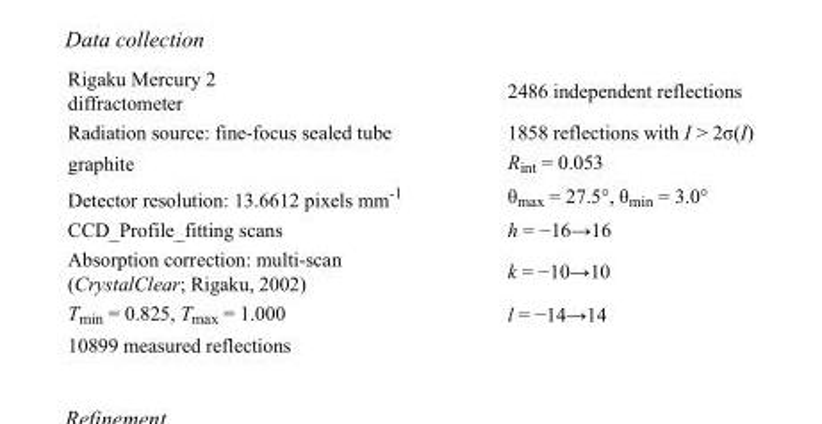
<table><tbody><tr><td>Rigaku Mercury 2 diffractometer</td><td>2486 independent reflections</td></tr><tr><td>Radiation source: fine-focus sealed tube</td><td>1858 reflections with I &gt; 2σ(I)</td></tr><tr><td>graphite</td><td>R<sub>int</sub> = 0.053</td></tr><tr><td>Detector resolution: 13.6612 pixels mm<sup>-1</sup></td><td>θ<sub>max</sub> = 27.5°, θ<sub>min</sub> = 3.0°</td></tr><tr><td>CCD_Profile_fitting scans</td><td>h = −16→16</td></tr><tr><td>Absorption correction: multi-scan (CrystalClear; Rigaku, 2002)</td><td>k = −10→10</td></tr><tr><td>T<sub>min</sub> = 0.825, T<sub>max</sub> = 1.000</td><td>l = −14→14</td></tr><tr><td>10899 measured reflections</td><td></td></tr></tbody></table>